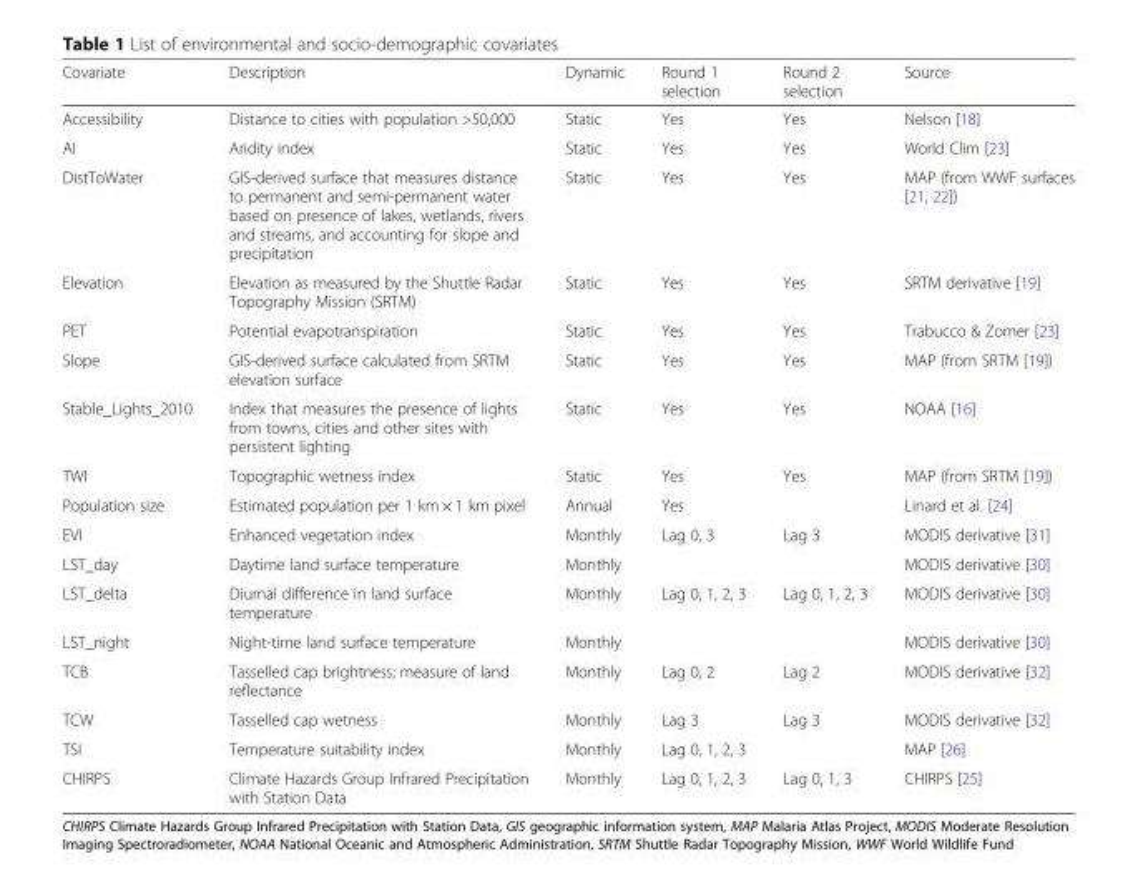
<table><thead><tr><td>Covariate</td><td>Description</td><td>Dynamic</td><td>Round 1 selection</td><td>Round 2 selection</td><td>Source</td></tr></thead><tbody><tr><td>Accessibility</td><td>Distance to cities with population &gt;50,000</td><td>Static</td><td>Yes</td><td>Yes</td><td>Nelson [18]</td></tr><tr><td>AI</td><td>Aridity index</td><td>Static</td><td>Yes</td><td>Yes</td><td>World Clim [23]</td></tr><tr><td>DistToWater</td><td>GIS-derived surface that measures distance to permanent and semi-permanent water based on presence of lakes, wetlands, rivers and streams, and accounting for slope and precipitation</td><td>Static</td><td>Yes</td><td>Yes</td><td>MAP (from WWF surfaces [21, 22])</td></tr><tr><td>Elevation</td><td>Elevation as measured by the Shuttle Radar Topography Mission (SRTM)</td><td>Static</td><td>Yes</td><td>Yes</td><td>SRTM derivative [19]</td></tr><tr><td>PET</td><td>Potential evapotranspiration</td><td>Static</td><td>Yes</td><td>Yes</td><td>Trabucco &amp; Zomer [23]</td></tr><tr><td>Slope</td><td>GIS-derived surface calculated from SRTM elevation surface</td><td>Static</td><td>Yes</td><td>Yes</td><td>MAP (from SRTM [19])</td></tr><tr><td>Stable_Lights_2010</td><td>Index that measures the presence of lights from towns, cities and other sites with persistent lighting</td><td>Static</td><td>Yes</td><td>Yes</td><td>NOAA [16]</td></tr><tr><td>TWI</td><td>Topographic wetness index</td><td>Static</td><td>Yes</td><td>Yes</td><td>MAP (from SRTM [19])</td></tr><tr><td>Population size</td><td>Estimated population per 1 km × 1 km pixel</td><td>Annual</td><td>Yes</td><td></td><td>Linard et al. [24]</td></tr><tr><td>EVI</td><td>Enhanced vegetation index</td><td>Monthly</td><td>Lag 0, 3</td><td>Lag 3</td><td>MODIS derivative [31]</td></tr><tr><td>LST_day</td><td>Daytime land surface temperature</td><td>Monthly</td><td></td><td></td><td>MODIS derivative [30]</td></tr><tr><td>LST_delta</td><td>Diurnal difference in land surface temperature</td><td>Monthly</td><td>Lag 0, 1, 2, 3</td><td>Lag 0, 1, 2, 3</td><td>MODIS derivative [30]</td></tr><tr><td>LST_night</td><td>Night-time land surface temperature</td><td>Monthly</td><td></td><td></td><td>MODIS derivative [30]</td></tr><tr><td>TCB</td><td>Tasselled cap brightness; measure of land reflectance</td><td>Monthly</td><td>Lag 0, 2</td><td>Lag 2</td><td>MODIS derivative [32]</td></tr><tr><td>TCW</td><td>Tasselled cap wetness</td><td>Monthly</td><td>Lag 3</td><td>Lag 3</td><td>MODIS derivative [32]</td></tr><tr><td>TSI</td><td>Temperature suitability index</td><td>Monthly</td><td>Lag 0, 1, 2, 3</td><td></td><td>MAP [26]</td></tr><tr><td>CHIRPS</td><td>Climate Hazards Group Infrared Precipitation with Station Data</td><td>Monthly</td><td>Lag 0, 1, 2, 3</td><td>Lag 0, 1, 3</td><td>CHIRPS [25]</td></tr></tbody></table>